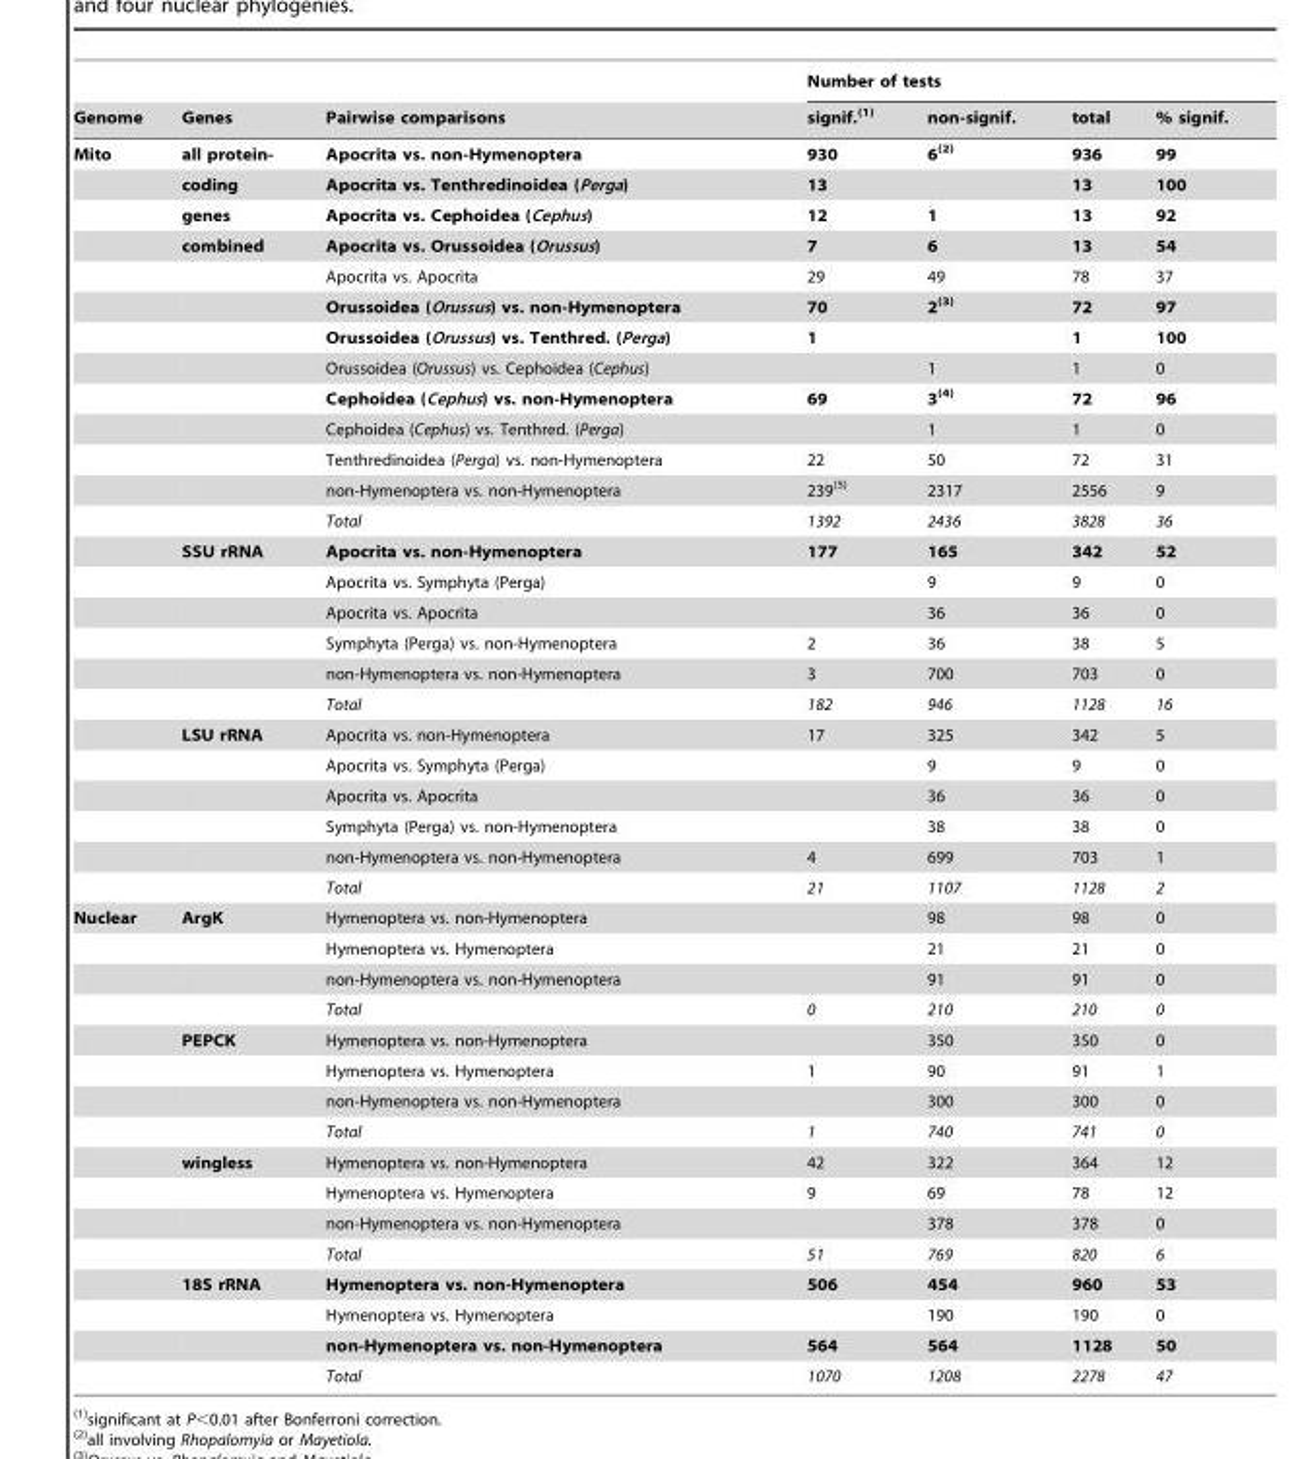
<table><thead><tr><td rowspan="2">Genome</td><td rowspan="2">Genes</td><td rowspan="2">Pairwise comparisons</td><td colspan="4">Number of tests</td></tr><tr><td>signif.(1)</td><td>non-signif.</td><td>total</td><td>% signif.</td></tr></thead><tbody><tr><td rowspan="25">Mito</td><td>all protein-</td><td>Apocrita vs. non-Hymenoptera</td><td>930</td><td>6(2)</td><td>936</td><td>99</td></tr><tr><td>coding</td><td>Apocrita vs. Tenthredinoidea (Perga)</td><td>13</td><td></td><td>13</td><td>100</td></tr><tr><td>genes</td><td>Apocrita vs. Cephoidea (Cephus)</td><td>12</td><td>1</td><td>13</td><td>92</td></tr><tr><td>combined</td><td>Apocrita vs. Orussoidea (Orussus)</td><td>7</td><td>6</td><td>13</td><td>54</td></tr><tr><td></td><td>Apocrita vs. Apocrita</td><td>29</td><td>49</td><td>78</td><td>37</td></tr><tr><td></td><td>Orussoidea (Orussus) vs. non-Hymenoptera</td><td>70</td><td>2(3)</td><td>72</td><td>97</td></tr><tr><td></td><td>Orussoidea (Orussus) vs. Tenthred. (Perga)</td><td>1</td><td></td><td>1</td><td>100</td></tr><tr><td></td><td>Orussoidea (Orussus) vs. Cephoidea (Cephus)</td><td></td><td>1</td><td>1</td><td>0</td></tr><tr><td></td><td>Cephoidea (Cephus) vs. non-Hymenoptera</td><td>69</td><td>3(4)</td><td>72</td><td>96</td></tr><tr><td></td><td>Cephoidea (Cephus) vs. Tenthred. (Perga)</td><td></td><td>1</td><td>1</td><td>0</td></tr><tr><td></td><td>Tenthredinoidea (Perga) vs. non-Hymenoptera</td><td>22</td><td>50</td><td>72</td><td>31</td></tr><tr><td></td><td>non-Hymenoptera vs. non-Hymenoptera</td><td>239(5)</td><td>2317</td><td>2556</td><td>9</td></tr><tr><td></td><td>Total</td><td>1392</td><td>2436</td><td>3828</td><td>36</td></tr><tr><td>SSU rRNA</td><td>Apocrita vs. non-Hymenoptera</td><td>177</td><td>165</td><td>342</td><td>52</td></tr><tr><td></td><td>Apocrita vs. Symphyta (Perga)</td><td></td><td>9</td><td>9</td><td>0</td></tr><tr><td></td><td>Apocrita vs. Apocrita</td><td></td><td>36</td><td>36</td><td>0</td></tr><tr><td></td><td>Symphyta (Perga) vs. non-Hymenoptera</td><td>2</td><td>36</td><td>38</td><td>5</td></tr><tr><td></td><td>non-Hymenoptera vs. non-Hymenoptera</td><td>3</td><td>700</td><td>703</td><td>0</td></tr><tr><td></td><td>Total</td><td>182</td><td>946</td><td>1128</td><td>16</td></tr><tr><td>LSU rRNA</td><td>Apocrita vs. non-Hymenoptera</td><td>17</td><td>325</td><td>342</td><td>5</td></tr><tr><td></td><td>Apocrita vs. Symphyta (Perga)</td><td></td><td>9</td><td>9</td><td>0</td></tr><tr><td></td><td>Apocrita vs. Apocrita</td><td></td><td>36</td><td>36</td><td>0</td></tr><tr><td></td><td>Symphyta (Perga) vs. non-Hymenoptera</td><td></td><td>38</td><td>38</td><td>0</td></tr><tr><td></td><td>non-Hymenoptera vs. non-Hymenoptera</td><td>4</td><td>699</td><td>703</td><td>1</td></tr><tr><td></td><td>Total</td><td>21</td><td>1107</td><td>1128</td><td>2</td></tr><tr><td rowspan="16">Nuclear</td><td>ArgK</td><td>Hymenoptera vs. non-Hymenoptera</td><td></td><td>98</td><td>98</td><td>0</td></tr><tr><td></td><td>Hymenoptera vs. Hymenoptera</td><td></td><td>21</td><td>21</td><td>0</td></tr><tr><td></td><td>non-Hymenoptera vs. non-Hymenoptera</td><td></td><td>91</td><td>91</td><td>0</td></tr><tr><td></td><td>Total</td><td>0</td><td>210</td><td>210</td><td>0</td></tr><tr><td>PEPCK</td><td>Hymenoptera vs. non-Hymenoptera</td><td></td><td>350</td><td>350</td><td>0</td></tr><tr><td></td><td>Hymenoptera vs. Hymenoptera</td><td>1</td><td>90</td><td>91</td><td>1</td></tr><tr><td></td><td>non-Hymenoptera vs. non-Hymenoptera</td><td></td><td>300</td><td>300</td><td>0</td></tr><tr><td></td><td>Total</td><td>1</td><td>740</td><td>741</td><td>0</td></tr><tr><td>wingless</td><td>Hymenoptera vs. non-Hymenoptera</td><td>42</td><td>322</td><td>364</td><td>12</td></tr><tr><td></td><td>Hymenoptera vs. Hymenoptera</td><td>9</td><td>69</td><td>78</td><td>12</td></tr><tr><td></td><td>non-Hymenoptera vs. non-Hymenoptera</td><td></td><td>378</td><td>378</td><td>0</td></tr><tr><td></td><td>Total</td><td>51</td><td>769</td><td>820</td><td>6</td></tr><tr><td>18S rRNA</td><td>Hymenoptera vs. non-Hymenoptera</td><td>506</td><td>454</td><td>960</td><td>53</td></tr><tr><td></td><td>Hymenoptera vs. Hymenoptera</td><td></td><td>190</td><td>190</td><td>0</td></tr><tr><td></td><td>non-Hymenoptera vs. non-Hymenoptera</td><td>564</td><td>564</td><td>1128</td><td>50</td></tr><tr><td></td><td>Total</td><td>1070</td><td>1208</td><td>2278</td><td>47</td></tr></tbody></table>